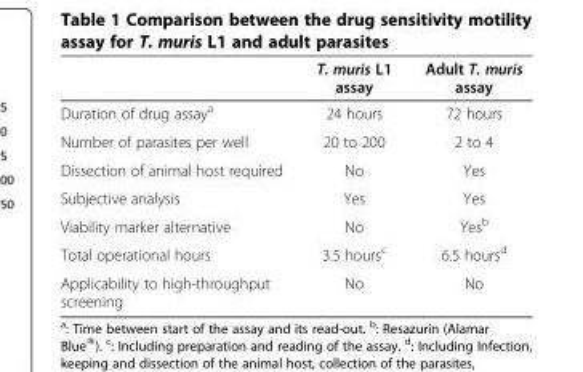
<table><thead><tr><td></td><td>T. muris L1 assay</td><td>Adult T. muris assay</td></tr></thead><tbody><tr><td>Duration of drug assay<sup>a</sup></td><td>24 hours</td><td>72 hours</td></tr><tr><td>Number of parasites per well</td><td>20 to 200</td><td>2 to 4</td></tr><tr><td>Dissection of animal host required</td><td>No</td><td>Yes</td></tr><tr><td>Subjective analysis</td><td>Yes</td><td>Yes</td></tr><tr><td>Viability marker alternative</td><td>No</td><td>Yes<sup>b</sup></td></tr><tr><td>Total operational hours</td><td>3.5 hours<sup>c</sup></td><td>6.5 hours<sup>d</sup></td></tr><tr><td>Applicability to high-throughput screening</td><td>No</td><td>No</td></tr></tbody></table>